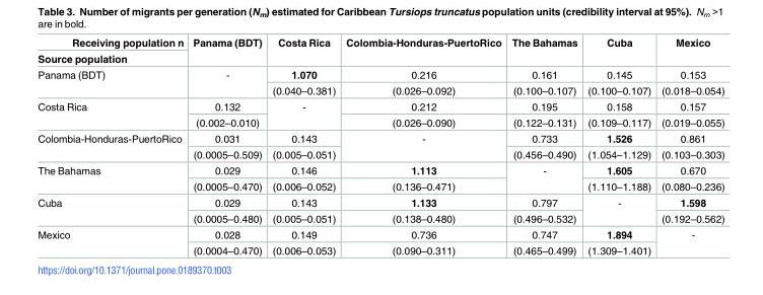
<table><thead><tr><td rowspan="2">Receiving population n Source population</td><td rowspan="2">Panama (BDT)</td><td rowspan="2">Costa Rica</td><td rowspan="2">Colombia-Honduras-PuertoRico</td><td rowspan="2">The Bahamas</td><td rowspan="2">Cuba</td><td rowspan="2">Mexico</td></tr><tr></tr></thead><tbody><tr><td rowspan="2">Panama (BDT)</td><td rowspan="2">-</td><td>1.070</td><td>0.216</td><td>0.161</td><td>0.145</td><td>0.153</td></tr><tr><td>(0.040–0.381)</td><td>(0.026–0.092)</td><td>(0.100–0.107)</td><td>(0.100–0.107)</td><td>(0.018–0.054)</td></tr><tr><td rowspan="2">Costa Rica</td><td>0.132</td><td rowspan="2">-</td><td>0.212</td><td>0.195</td><td>0.158</td><td>0.157</td></tr><tr><td>(0.002–0.010)</td><td>(0.026–0.090)</td><td>(0.122–0.131)</td><td>(0.109–0.117)</td><td>(0.019–0.055)</td></tr><tr><td rowspan="2">Colombia-Honduras-PuertoRico</td><td>0.031</td><td>0.143</td><td rowspan="2">-</td><td>0.733</td><td>1.526</td><td>0.861</td></tr><tr><td>(0.0005–0.509)</td><td>(0.005–0.051)</td><td>(0.456–0.490)</td><td>(1.054–1.129)</td><td>(0.103–0.303)</td></tr><tr><td rowspan="2">The Bahamas</td><td>0.029</td><td>0.146</td><td>1.113</td><td rowspan="2">-</td><td>1.605</td><td>0.670</td></tr><tr><td>(0.0005–0.470)</td><td>(0.006–0.052)</td><td>(0.136–0.471)</td><td>(1.110–1.188)</td><td>(0.080–0.236)</td></tr><tr><td rowspan="2">Cuba</td><td>0.029</td><td>0.143</td><td>1.133</td><td>0.797</td><td rowspan="2">-</td><td>1.598</td></tr><tr><td>(0.0005–0.480)</td><td>(0.005–0.051)</td><td>(0.138–0.480)</td><td>(0.496–0.532)</td><td>(0.192–0.562)</td></tr><tr><td rowspan="2">Mexico</td><td>0.028</td><td>0.149</td><td>0.736</td><td>0.747</td><td>1.894</td><td rowspan="2">-</td></tr><tr><td>(0.0004–0.470)</td><td>(0.006–0.053)</td><td>(0.090–0.311)</td><td>(0.465–0.499)</td><td>(1.309–1.401)</td></tr></tbody></table>